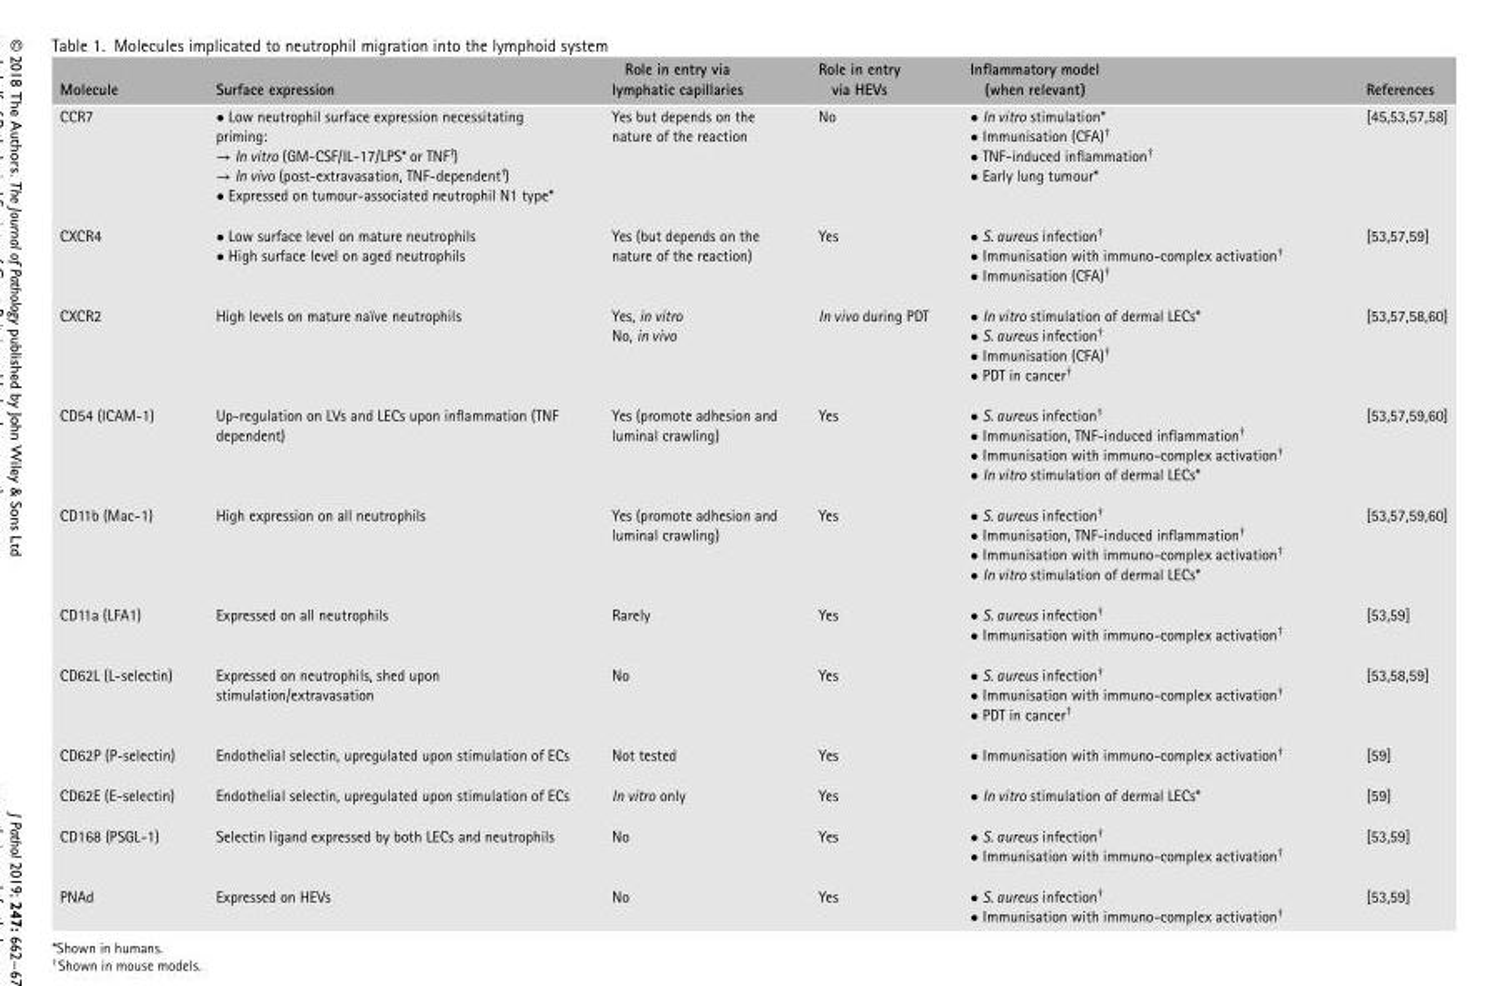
<table><thead><tr><td>Molecule</td><td>Surface expression</td><td>Role in entry via lymphatic capillaries</td><td>Role in entry via HEVs</td><td>Inflammatory model (when relevant)</td><td>References</td></tr></thead><tbody><tr><td>CCR7</td><td>• Low neutrophil surface expression necessitating priming: → In vitro (GM-CSF/IL-17/LPS* or TNF†) → In vivo (post-extravasation, TNF-dependent†) • Expressed on tumour-associated neutrophil N1 type*</td><td>Yes but depends on the nature of the reaction</td><td>No</td><td>• In vitro stimulation* • Immunisation (CFA)† • TNF-induced inflammation† • Early lung tumour*</td><td>[45,53,57,58]</td></tr><tr><td>CXCR4</td><td>• Low surface level on mature neutrophils • High surface level on aged neutrophils</td><td>Yes (but depends on the nature of the reaction)</td><td>Yes</td><td>• S. aureus infection† • Immunisation with immuno-complex activation† • Immunisation (CFA)†</td><td>[53,57,59]</td></tr><tr><td>CXCR2</td><td>High levels on mature naïve neutrophils</td><td>Yes, in vitro No, in vivo</td><td>In vivo during PDT</td><td>• In vitro stimulation of dermal LECs* • S. aureus infection† • Immunisation (CFA)† • PDT in cancer†</td><td>[53,57,58,60]</td></tr><tr><td>CD54 (ICAM-1)</td><td>Up-regulation on LVs and LECs upon inflammation (TNF dependent)</td><td>Yes (promote adhesion and luminal crawling)</td><td>Yes</td><td>• S. aureus infection† • Immunisation, TNF-induced inflammation† • Immunisation with immuno-complex activation† • In vitro stimulation of dermal LECs*</td><td>[53,57,59,60]</td></tr><tr><td>CD11b (Mac-1)</td><td>High expression on all neutrophils</td><td>Yes (promote adhesion and luminal crawling)</td><td>Yes</td><td>• S. aureus infection† • Immunisation, TNF-induced inflammation† • Immunisation with immuno-complex activation† • In vitro stimulation of dermal LECs*</td><td>[53,57,59,60]</td></tr><tr><td>CD11a (LFA1)</td><td>Expressed on all neutrophils</td><td>Rarely</td><td>Yes</td><td>• S. aureus infection† • Immunisation with immuno-complex activation†</td><td>[53,59]</td></tr><tr><td>CD62L (L-selectin)</td><td>Expressed on neutrophils, shed upon stimulation/extravasation</td><td>No</td><td>Yes</td><td>• S. aureus infection† • Immunisation with immuno-complex activation† • PDT in cancer†</td><td>[53,58,59]</td></tr><tr><td>CD62P (P-selectin)</td><td>Endothelial selectin, upregulated upon stimulation of ECs</td><td>Not tested</td><td>Yes</td><td>• Immunisation with immuno-complex activation†</td><td>[59]</td></tr><tr><td>CD62E (E-selectin)</td><td>Endothelial selectin, upregulated upon stimulation of ECs</td><td>In vitro only</td><td>Yes</td><td>• In vitro stimulation of dermal LECs*</td><td>[59]</td></tr><tr><td>CD168 (PSGL-1)</td><td>Selectin ligand expressed by both LECs and neutrophils</td><td>No</td><td>Yes</td><td>• S. aureus infection† • Immunisation with immuno-complex activation†</td><td>[53,59]</td></tr><tr><td>PNAd</td><td>Expressed on HEVs</td><td>No</td><td>Yes</td><td>• S. aureus infection† • Immunisation with immuno-complex activation†</td><td>[53,59]</td></tr></tbody></table>